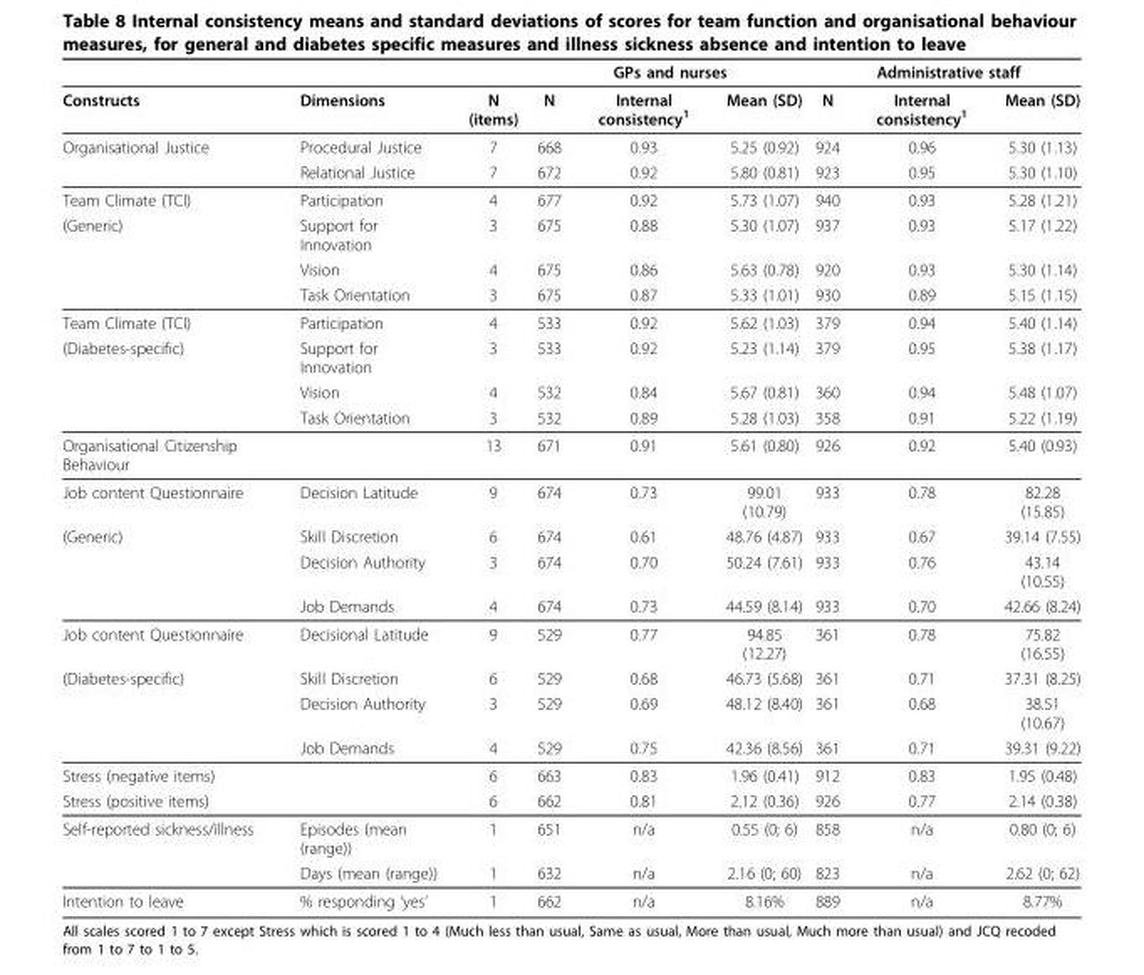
<table><thead><tr><td rowspan="2">Constructs</td><td rowspan="2">Dimensions</td><td rowspan="2">N (items)</td><td colspan="3">GPs and nurses</td><td colspan="3">Administrative staff</td></tr><tr><td>N</td><td>Internal consistency<sup>1</sup></td><td>Mean (SD)</td><td>N</td><td>Internal consistency<sup>1</sup></td><td>Mean (SD)</td></tr></thead><tbody><tr><td rowspan="2">Organisational Justice</td><td>Procedural Justice</td><td>7</td><td>668</td><td>0.93</td><td>5.25 (0.92)</td><td>924</td><td>0.96</td><td>5.30 (1.13)</td></tr><tr><td>Relational Justice</td><td>7</td><td>672</td><td>0.92</td><td>5.80 (0.81)</td><td>923</td><td>0.95</td><td>5.30 (1.10)</td></tr><tr><td>Team Climate (TCI)</td><td>Participation</td><td>4</td><td>677</td><td>0.92</td><td>5.73 (1.07)</td><td>940</td><td>0.93</td><td>5.28 (1.21)</td></tr><tr><td rowspan="3">(Generic)</td><td>Support for Innovation</td><td>3</td><td>675</td><td>0.88</td><td>5.30 (1.07)</td><td>937</td><td>0.93</td><td>5.17 (1.22)</td></tr><tr><td>Vision</td><td>4</td><td>675</td><td>0.86</td><td>5.63 (0.78)</td><td>920</td><td>0.93</td><td>5.30 (1.14)</td></tr><tr><td>Task Orientation</td><td>3</td><td>675</td><td>0.87</td><td>5.33 (1.01)</td><td>930</td><td>0.89</td><td>5.15 (1.15)</td></tr><tr><td>Team Climate (TCI)</td><td>Participation</td><td>4</td><td>533</td><td>0.92</td><td>5.62 (1.03)</td><td>379</td><td>0.94</td><td>5.40 (1.14)</td></tr><tr><td rowspan="3">(Diabetes-specific)</td><td>Support for Innovation</td><td>3</td><td>533</td><td>0.92</td><td>5.23 (1.14)</td><td>379</td><td>0.95</td><td>5.38 (1.17)</td></tr><tr><td>Vision</td><td>4</td><td>532</td><td>0.84</td><td>5.67 (0.81)</td><td>360</td><td>0.94</td><td>5.48 (1.07)</td></tr><tr><td>Task Orientation</td><td>3</td><td>532</td><td>0.89</td><td>5.28 (1.03)</td><td>358</td><td>0.91</td><td>5.22 (1.19)</td></tr><tr><td>Organisational Citizenship Behaviour</td><td></td><td>13</td><td>671</td><td>0.91</td><td>5.61 (0.80)</td><td>926</td><td>0.92</td><td>5.40 (0.93)</td></tr><tr><td>Job content Questionnaire</td><td>Decision Latitude</td><td>9</td><td>674</td><td>0.73</td><td>99.01 (10.79)</td><td>933</td><td>0.78</td><td>82.28 (15.85)</td></tr><tr><td rowspan="3">(Generic)</td><td>Skill Discretion</td><td>6</td><td>674</td><td>0.61</td><td>48.76 (4.87)</td><td>933</td><td>0.67</td><td>39.14 (7.55)</td></tr><tr><td>Decision Authority</td><td>3</td><td>674</td><td>0.70</td><td>50.24 (7.61)</td><td>933</td><td>0.76</td><td>43.14 (10.55)</td></tr><tr><td>Job Demands</td><td>4</td><td>674</td><td>0.73</td><td>44.59 (8.14)</td><td>933</td><td>0.70</td><td>42.66 (8.24)</td></tr><tr><td>Job content Questionnaire</td><td>Decisional Latitude</td><td>9</td><td>529</td><td>0.77</td><td>94.85 (12.27)</td><td>361</td><td>0.78</td><td>75.82 (16.55)</td></tr><tr><td rowspan="3">(Diabetes-specific)</td><td>Skill Discretion</td><td>6</td><td>529</td><td>0.68</td><td>46.73 (5.68)</td><td>361</td><td>0.71</td><td>37.31 (8.25)</td></tr><tr><td>Decision Authority</td><td>3</td><td>529</td><td>0.69</td><td>48.12 (8.40)</td><td>361</td><td>0.68</td><td>38.51 (10.67)</td></tr><tr><td>Job Demands</td><td>4</td><td>529</td><td>0.75</td><td>42.36 (8.56)</td><td>361</td><td>0.71</td><td>39.31 (9.22)</td></tr><tr><td colspan="2">Stress (negative items)</td><td>6</td><td>663</td><td>0.83</td><td>1.96 (0.41)</td><td>912</td><td>0.83</td><td>1.95 (0.48)</td></tr><tr><td colspan="2">Stress (positive items)</td><td>6</td><td>662</td><td>0.81</td><td>2.12 (0.36)</td><td>926</td><td>0.77</td><td>2.14 (0.38)</td></tr><tr><td rowspan="2">Self-reported sickness/illness</td><td>Episodes (mean (range))</td><td>1</td><td>651</td><td>n/a</td><td>0.55 (0; 6)</td><td>858</td><td>n/a</td><td>0.80 (0; 6)</td></tr><tr><td>Days (mean (range))</td><td>1</td><td>632</td><td>n/a</td><td>2.16 (0; 60)</td><td>823</td><td>n/a</td><td>2.62 (0; 62)</td></tr><tr><td>Intention to leave</td><td>% responding ‘yes’</td><td>1</td><td>662</td><td>n/a</td><td>8.16%</td><td>889</td><td>n/a</td><td>8.77%</td></tr></tbody></table>